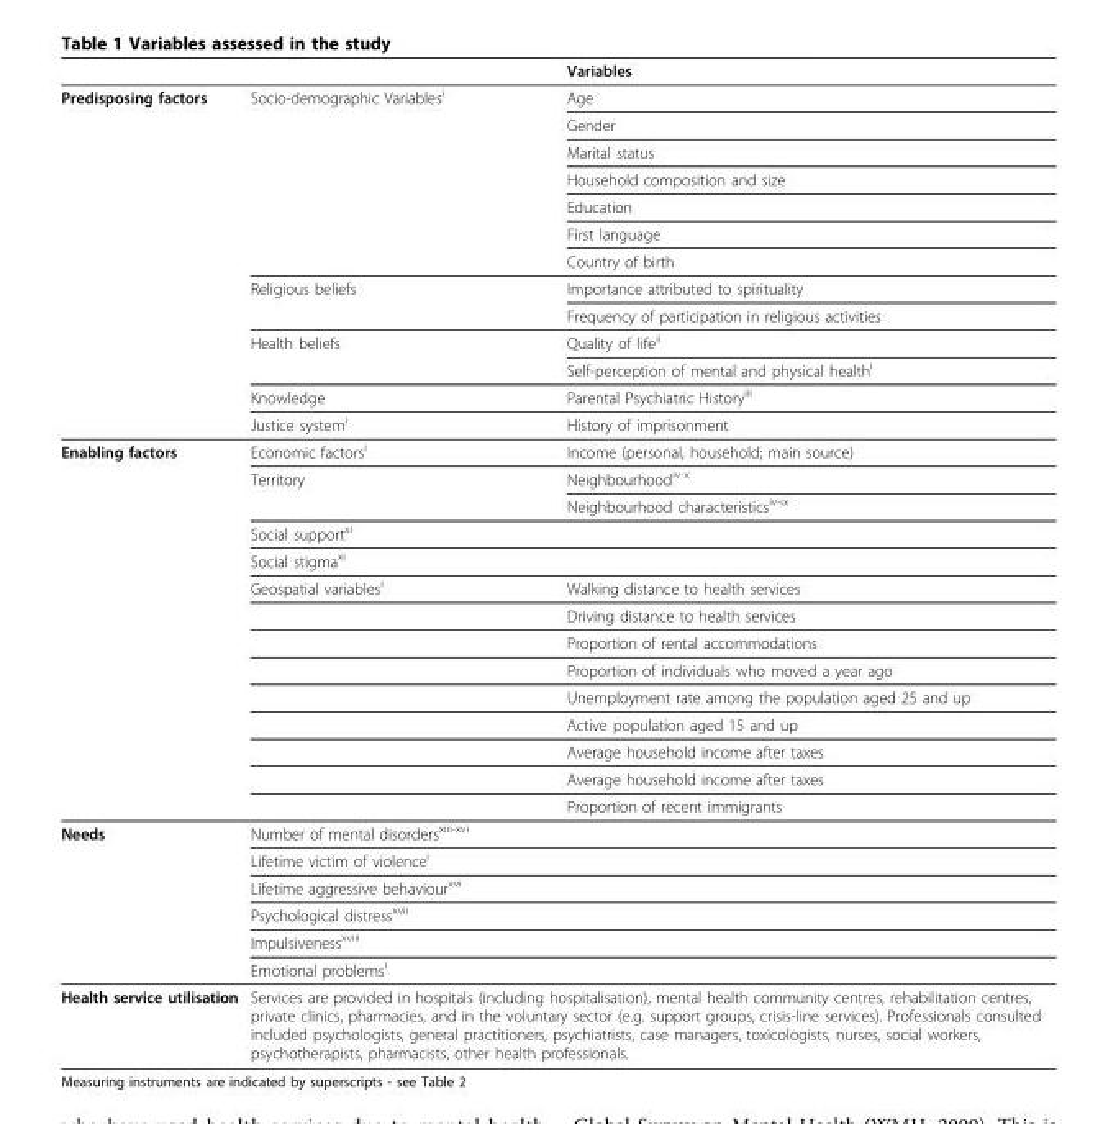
<table><thead><tr><td></td><td></td><td>Variables</td></tr></thead><tbody><tr><td rowspan="13">Predisposing factors</td><td>Socio-demographic Variables<sup>i</sup></td><td>Age</td></tr><tr><td></td><td>Gender</td></tr><tr><td></td><td>Marital status</td></tr><tr><td></td><td>Household composition and size</td></tr><tr><td></td><td>Education</td></tr><tr><td></td><td>First language</td></tr><tr><td></td><td>Country of birth</td></tr><tr><td>Religious beliefs</td><td>Importance attributed to spirituality</td></tr><tr><td></td><td>Frequency of participation in religious activities</td></tr><tr><td>Health beliefs</td><td>Quality of life<sup>ii</sup></td></tr><tr><td></td><td>Self-perception of mental and physical health<sup>i</sup></td></tr><tr><td>Knowledge</td><td>Parental Psychiatric History<sup>iii</sup></td></tr><tr><td>Justice system<sup>i</sup></td><td>History of imprisonment</td></tr><tr><td rowspan="14">Enabling factors</td><td>Economic factors<sup>i</sup></td><td>Income (personal, household; main source)</td></tr><tr><td>Territory</td><td>Neighbourhood<sup>iv-x</sup></td></tr><tr><td></td><td>Neighbourhood characteristics<sup>iv-ix</sup></td></tr><tr><td>Social support<sup>xi</sup></td><td></td></tr><tr><td>Social stigma<sup>xi</sup></td><td></td></tr><tr><td>Geospatial variables<sup>i</sup></td><td>Walking distance to health services</td></tr><tr><td></td><td>Driving distance to health services</td></tr><tr><td></td><td>Proportion of rental accommodations</td></tr><tr><td></td><td>Proportion of individuals who moved a year ago</td></tr><tr><td></td><td>Unemployment rate among the population aged 25 and up</td></tr><tr><td></td><td>Active population aged 15 and up</td></tr><tr><td></td><td>Average household income after taxes</td></tr><tr><td></td><td>Average household income after taxes</td></tr><tr><td></td><td>Proportion of recent immigrants</td></tr><tr><td rowspan="6">Needs</td><td>Number of mental disorders<sup>xiii-xvi</sup></td><td></td></tr><tr><td>Lifetime victim of violence<sup>i</sup></td><td></td></tr><tr><td>Lifetime aggressive behaviour<sup>xvi</sup></td><td></td></tr><tr><td>Psychological distress<sup>xvii</sup></td><td></td></tr><tr><td>Impulsiveness<sup>xviii</sup></td><td></td></tr><tr><td>Emotional problems<sup>i</sup></td><td></td></tr><tr><td>Health service utilisation</td><td colspan="2">Services are provided in hospitals (including hospitalisation), mental health community centres, rehabilitation centres, private clinics, pharmacies, and in the voluntary sector (e.g. support groups, crisis-line services). Professionals consulted included psychologists, general practitioners, psychiatrists, case managers, toxicologists, nurses, social workers, psychotherapists, pharmacists, other health professionals.</td></tr></tbody></table>